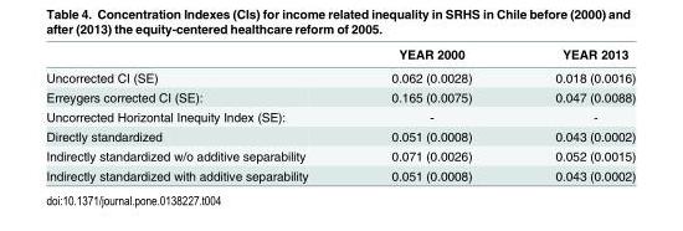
<table><thead><tr><td></td><td>YEAR 2000</td><td>YEAR 2013</td></tr></thead><tbody><tr><td>Uncorrected CI (SE)</td><td>0.062 (0.0028)</td><td>0.018 (0.0016)</td></tr><tr><td>Erreygers corrected CI (SE):</td><td>0.165 (0.0075)</td><td>0.047 (0.0088)</td></tr><tr><td>Uncorrected Horizontal Inequity Index (SE):</td><td>-</td><td>-</td></tr><tr><td>Directly standardized</td><td>0.051 (0.0008)</td><td>0.043 (0.0002)</td></tr><tr><td>Indirectly standardized w/o additive separability</td><td>0.071 (0.0026)</td><td>0.052 (0.0015)</td></tr><tr><td>Indirectly standardized with additive separability</td><td>0.051 (0.0008)</td><td>0.043 (0.0002)</td></tr></tbody></table>